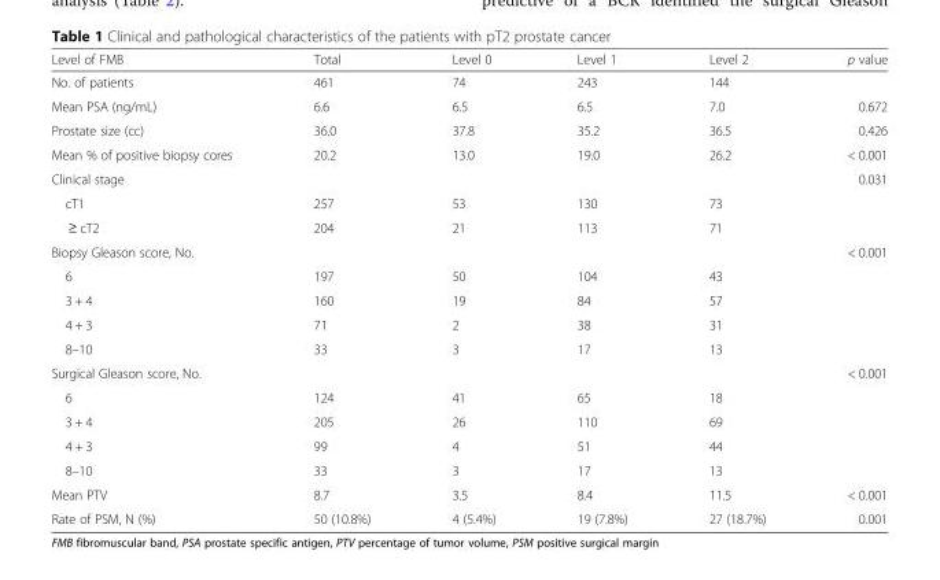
<table><thead><tr><td>Level of FMB</td><td>Total</td><td>Level 0</td><td>Level 1</td><td>Level 2</td><td>p value</td></tr></thead><tbody><tr><td>No. of patients</td><td>461</td><td>74</td><td>243</td><td>144</td><td></td></tr><tr><td>Mean PSA (ng/mL)</td><td>6.6</td><td>6.5</td><td>6.5</td><td>7.0</td><td>0.672</td></tr><tr><td>Prostate size (cc)</td><td>36.0</td><td>37.8</td><td>35.2</td><td>36.5</td><td>0.426</td></tr><tr><td>Mean % of positive biopsy cores</td><td>20.2</td><td>13.0</td><td>19.0</td><td>26.2</td><td>&lt; 0.001</td></tr><tr><td>Clinical stage</td><td></td><td></td><td></td><td></td><td>0.031</td></tr><tr><td>cT1</td><td>257</td><td>53</td><td>130</td><td>73</td><td></td></tr><tr><td>≥ cT2</td><td>204</td><td>21</td><td>113</td><td>71</td><td></td></tr><tr><td>Biopsy Gleason score, No.</td><td></td><td></td><td></td><td></td><td>&lt; 0.001</td></tr><tr><td>6</td><td>197</td><td>50</td><td>104</td><td>43</td><td></td></tr><tr><td>3 + 4</td><td>160</td><td>19</td><td>84</td><td>57</td><td></td></tr><tr><td>4 + 3</td><td>71</td><td>2</td><td>38</td><td>31</td><td></td></tr><tr><td>8–10</td><td>33</td><td>3</td><td>17</td><td>13</td><td></td></tr><tr><td>Surgical Gleason score, No.</td><td></td><td></td><td></td><td></td><td>&lt; 0.001</td></tr><tr><td>6</td><td>124</td><td>41</td><td>65</td><td>18</td><td></td></tr><tr><td>3 + 4</td><td>205</td><td>26</td><td>110</td><td>69</td><td></td></tr><tr><td>4 + 3</td><td>99</td><td>4</td><td>51</td><td>44</td><td></td></tr><tr><td>8–10</td><td>33</td><td>3</td><td>17</td><td>13</td><td></td></tr><tr><td>Mean PTV</td><td>8.7</td><td>3.5</td><td>8.4</td><td>11.5</td><td>&lt; 0.001</td></tr><tr><td>Rate of PSM, N (%)</td><td>50 (10.8%)</td><td>4 (5.4%)</td><td>19 (7.8%)</td><td>27 (18.7%)</td><td>0.001</td></tr></tbody></table>